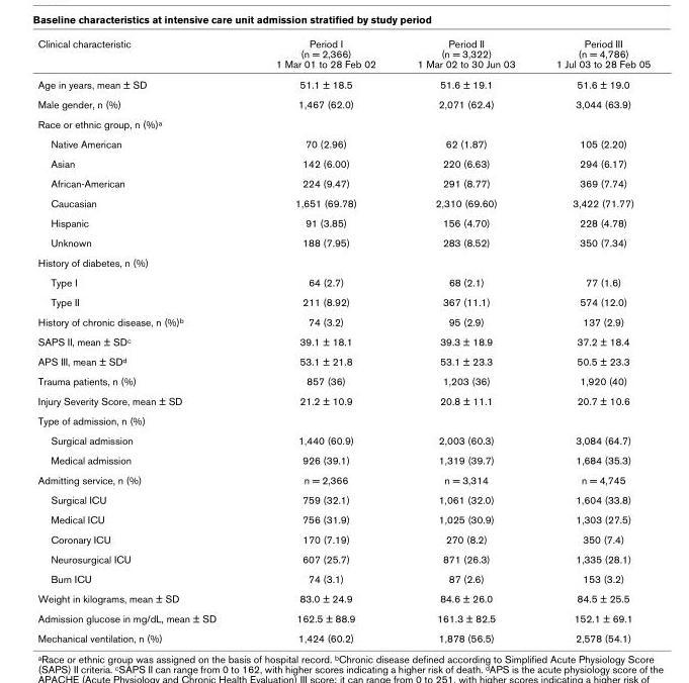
<table><thead><tr><td>Clinical characteristic</td><td>Period I (n = 2,366) 1 Mar 01 to 28 Feb 02</td><td>Period II (n = 3,322) 1 Mar 02 to 30 Jun 03</td><td>Period III (n = 4,786) 1 Jul 03 to 28 Feb 05</td></tr></thead><tbody><tr><td>Age in years, mean ± SD</td><td>51.1 ± 18.5</td><td>51.6 ± 19.1</td><td>51.6 ± 19.0</td></tr><tr><td>Male gender, n (%)</td><td>1,467 (62.0)</td><td>2,071 (62.4)</td><td>3,044 (63.9)</td></tr><tr><td colspan="4">Race or ethnic group, n (%)<sup>a</sup></td></tr><tr><td>Native American</td><td>70 (2.96)</td><td>62 (1.87)</td><td>105 (2.20)</td></tr><tr><td>Asian</td><td>142 (6.00)</td><td>220 (6.63)</td><td>294 (6.17)</td></tr><tr><td>African-American</td><td>224 (9.47)</td><td>291 (8.77)</td><td>369 (7.74)</td></tr><tr><td>Caucasian</td><td>1,651 (69.78)</td><td>2,310 (69.60)</td><td>3,422 (71.77)</td></tr><tr><td>Hispanic</td><td>91 (3.85)</td><td>156 (4.70)</td><td>228 (4.78)</td></tr><tr><td>Unknown</td><td>188 (7.95)</td><td>283 (8.52)</td><td>350 (7.34)</td></tr><tr><td colspan="4">History of diabetes, n (%)</td></tr><tr><td>Type I</td><td>64 (2.7)</td><td>68 (2.1)</td><td>77 (1.6)</td></tr><tr><td>Type II</td><td>211 (8.92)</td><td>367 (11.1)</td><td>574 (12.0)</td></tr><tr><td>History of chronic disease, n (%)<sup>b</sup></td><td>74 (3.2)</td><td>95 (2.9)</td><td>137 (2.9)</td></tr><tr><td>SAPS II, mean ± SD<sup>c</sup></td><td>39.1 ± 18.1</td><td>39.3 ± 18.9</td><td>37.2 ± 18.4</td></tr><tr><td>APS III, mean ± SD<sup>d</sup></td><td>53.1 ± 21.8</td><td>53.1 ± 23.3</td><td>50.5 ± 23.3</td></tr><tr><td>Trauma patients, n (%)</td><td>857 (36)</td><td>1,203 (36)</td><td>1,920 (40)</td></tr><tr><td>Injury Severity Score, mean ± SD</td><td>21.2 ± 10.9</td><td>20.8 ± 11.1</td><td>20.7 ± 10.6</td></tr><tr><td colspan="4">Type of admission, n (%)</td></tr><tr><td>Surgical admission</td><td>1,440 (60.9)</td><td>2,003 (60.3)</td><td>3,084 (64.7)</td></tr><tr><td>Medical admission</td><td>926 (39.1)</td><td>1,319 (39.7)</td><td>1,684 (35.3)</td></tr><tr><td>Admitting service, n (%)</td><td>n = 2,366</td><td>n = 3,314</td><td>n = 4,745</td></tr><tr><td>Surgical ICU</td><td>759 (32.1)</td><td>1,061 (32.0)</td><td>1,604 (33.8)</td></tr><tr><td>Medical ICU</td><td>756 (31.9)</td><td>1,025 (30.9)</td><td>1,303 (27.5)</td></tr><tr><td>Coronary ICU</td><td>170 (7.19)</td><td>270 (8.2)</td><td>350 (7.4)</td></tr><tr><td>Neurosurgical ICU</td><td>607 (25.7)</td><td>871 (26.3)</td><td>1,335 (28.1)</td></tr><tr><td>Burn ICU</td><td>74 (3.1)</td><td>87 (2.6)</td><td>153 (3.2)</td></tr><tr><td>Weight in kilograms, mean ± SD</td><td>83.0 ± 24.9</td><td>84.6 ± 26.0</td><td>84.5 ± 25.5</td></tr><tr><td>Admission glucose in mg/dL, mean ± SD</td><td>162.5 ± 88.9</td><td>161.3 ± 82.5</td><td>152.1 ± 69.1</td></tr><tr><td>Mechanical ventilation, n (%)</td><td>1,424 (60.2)</td><td>1,878 (56.5)</td><td>2,578 (54.1)</td></tr></tbody></table>